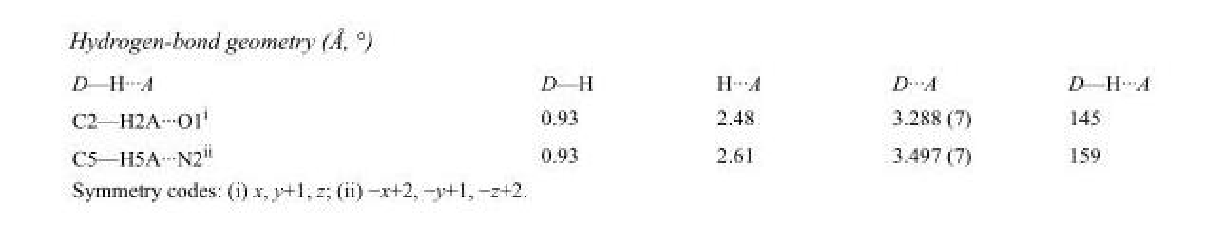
<table><tbody><tr><td>D—H···A</td><td>D—H</td><td>H···A</td><td>D···A</td><td>D—H···A</td></tr><tr><td>C2—H2A···O1<sup>i</sup></td><td>0.93</td><td>2.48</td><td>3.288 (7)</td><td>145</td></tr><tr><td>C5—H5A···N2<sup>ii</sup></td><td>0.93</td><td>2.61</td><td>3.497 (7)</td><td>159</td></tr></tbody></table>